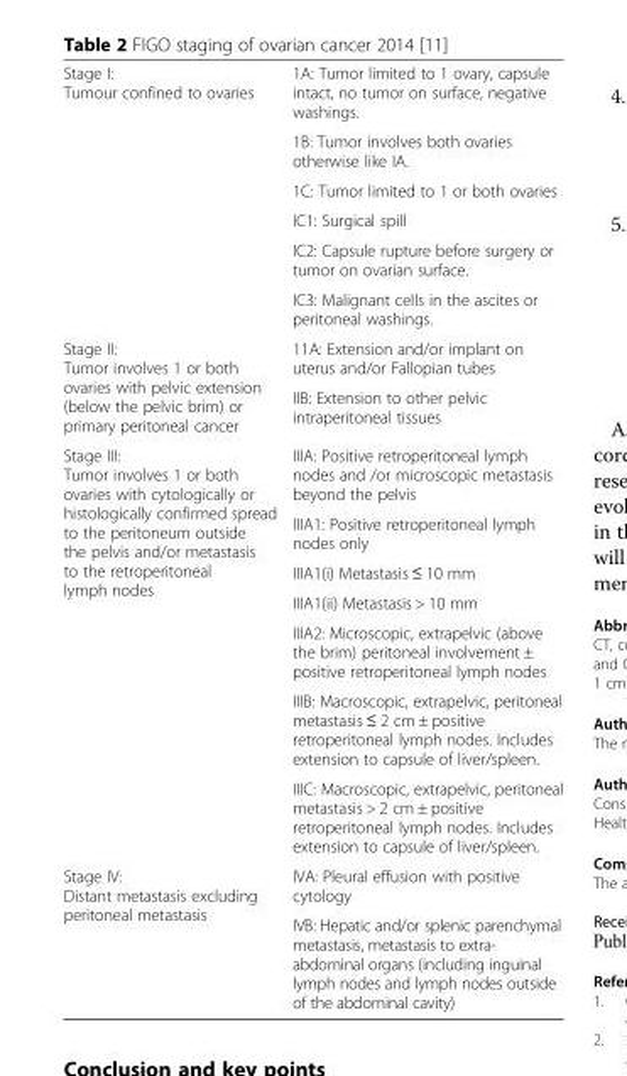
<table><tbody><tr><td rowspan="6">Stage I: Tumour confined to ovaries</td><td>1A: Tumor limited to 1 ovary, capsule intact, no tumor on surface, negative washings.</td></tr><tr><td>1B: Tumor involves both ovaries otherwise like IA.</td></tr><tr><td>1C: Tumor limited to 1 or both ovaries</td></tr><tr><td>IC1: Surgical spill</td></tr><tr><td>IC2: Capsule rupture before surgery or tumor on ovarian surface.</td></tr><tr><td>IC3: Malignant cells in the ascites or peritoneal washings.</td></tr><tr><td rowspan="2">Stage II: Tumor involves 1 or both ovaries with pelvic extension (below the pelvic brim) or primary peritoneal cancer</td><td>11A: Extension and/or implant on uterus and/or Fallopian tubes</td></tr><tr><td>IIB: Extension to other pelvic intraperitoneal tissues</td></tr><tr><td rowspan="7">Stage III: Tumor involves 1 or both ovaries with cytologically or histologically confirmed spread to the peritoneum outside the pelvis and/or metastasis to the retroperitoneal lymph nodes</td><td>IIIA: Positive retroperitoneal lymph nodes and /or microscopic metastasis beyond the pelvis</td></tr><tr><td>IIIA1: Positive retroperitoneal lymph nodes only</td></tr><tr><td>IIIA1(i) Metastasis ≤ 10 mm</td></tr><tr><td>IIIA1(ii) Metastasis &gt; 10 mm</td></tr><tr><td>IIIA2: Microscopic, extrapelvic (above the brim) peritoneal involvement ± positive retroperitoneal lymph nodes</td></tr><tr><td>IIIB: Macroscopic, extrapelvic, peritoneal metastasis ≤ 2 cm ± positive retroperitoneal lymph nodes. Includes extension to capsule of liver/spleen.</td></tr><tr><td>IIIC: Macroscopic, extrapelvic, peritoneal metastasis &gt; 2 cm ± positive retroperitoneal lymph nodes. Includes extension to capsule of liver/spleen.</td></tr><tr><td rowspan="2">Stage IV: Distant metastasis excluding peritoneal metastasis</td><td>IVA: Pleural effusion with positive cytology</td></tr><tr><td>IVB: Hepatic and/or splenic parenchymal metastasis, metastasis to extra- abdominal organs (including inguinal lymph nodes and lymph nodes outside of the abdominal cavity)</td></tr></tbody></table>